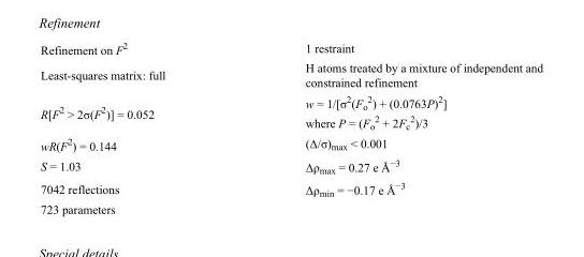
<table><tbody><tr><td>Refinement on F<sup>2</sup></td><td>1 restraint</td></tr><tr><td>Least-squares matrix: full</td><td>H atoms treated by a mixture of independent and constrained refinement</td></tr><tr><td>R[F<sup>2</sup> &gt; 2σ(F<sup>2</sup>)] = 0.052</td><td>w = 1/[σ<sup>2</sup>(F<sub>o</sub> <sup>2</sup>) + (0.0763P)<sup>2</sup>] where P = (F<sub>o</sub> <sup>2</sup> + 2F<sub>c</sub> <sup>2</sup>)/3</td></tr><tr><td>wR(F<sup>2</sup>) = 0.144</td><td>(Δ/σ)<sub>max</sub> &lt; 0.001</td></tr><tr><td>S = 1.03</td><td>Δρ<sub>max</sub> = 0.27 e Å<sup>−3</sup></td></tr><tr><td>7042 reflections</td><td>Δρ<sub>min</sub> = −0.17 e Å<sup>−3</sup></td></tr><tr><td>723 parameters</td><td></td></tr></tbody></table>